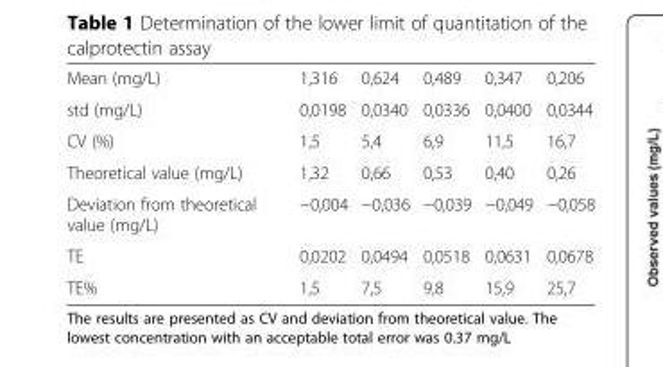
<table><tbody><tr><td>Mean (mg/L)</td><td>1,316</td><td>0,624</td><td>0,489</td><td>0,347</td><td>0,206</td></tr><tr><td>std (mg/L)</td><td>0,0198</td><td>0,0340</td><td>0,0336</td><td>0,0400</td><td>0,0344</td></tr><tr><td>CV (%)</td><td>1,5</td><td>5,4</td><td>6,9</td><td>11,5</td><td>16,7</td></tr><tr><td>Theoretical value (mg/L)</td><td>1,32</td><td>0,66</td><td>0,53</td><td>0,40</td><td>0,26</td></tr><tr><td>Deviation from theoretical value (mg/L)</td><td>−0,004</td><td>−0,036</td><td>−0,039</td><td>−0,049</td><td>−0,058</td></tr><tr><td>TE</td><td>0,0202</td><td>0,0494</td><td>0,0518</td><td>0,0631</td><td>0,0678</td></tr><tr><td>TE%</td><td>1,5</td><td>7,5</td><td>9,8</td><td>15,9</td><td>25,7</td></tr></tbody></table>